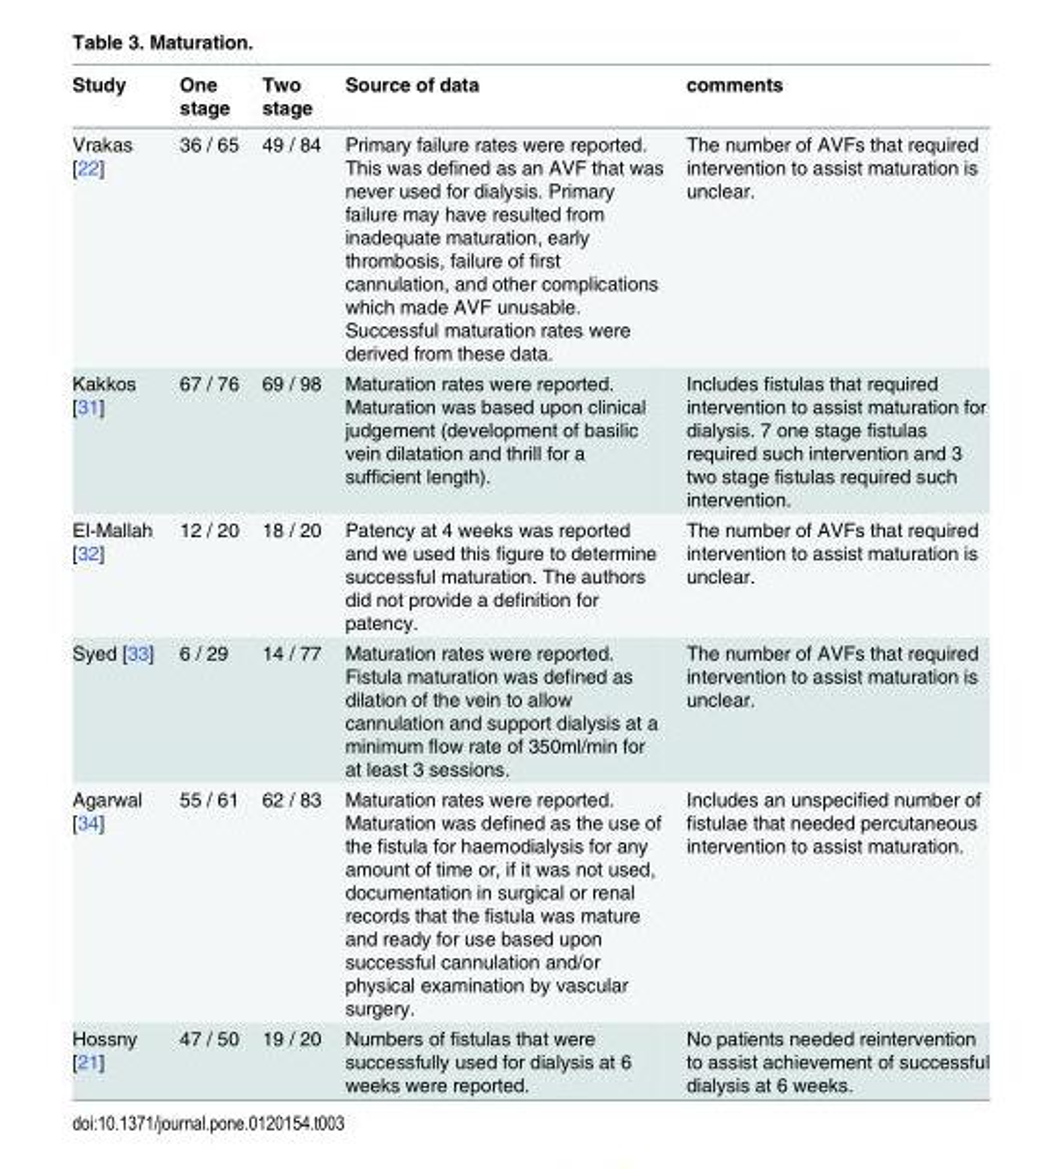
<table><thead><tr><td>Study</td><td>One stage</td><td>Two stage</td><td>Source of data</td><td>comments</td></tr></thead><tbody><tr><td>Vrakas [22]</td><td>36 / 65</td><td>49 / 84</td><td>Primary failure rates were reported. This was defined as an AVF that was never used for dialysis. Primary failure may have resulted from inadequate maturation, early thrombosis, failure of first cannulation, and other complications which made AVF unusable. Successful maturation rates were derived from these data.</td><td>The number of AVFs that required intervention to assist maturation is unclear.</td></tr><tr><td>Kakkos [31]</td><td>67 / 76</td><td>69 / 98</td><td>Maturation rates were reported. Maturation was based upon clinical judgement (development of basilic vein dilatation and thrill for a sufficient length).</td><td>Includes fistulas that required intervention to assist maturation for dialysis. 7 one stage fistulas required such intervention and 3 two stage fistulas required such intervention.</td></tr><tr><td>El-Mallah [32]</td><td>12 / 20</td><td>18 / 20</td><td>Patency at 4 weeks was reported and we used this figure to determine successful maturation. The authors did not provide a definition for patency.</td><td>The number of AVFs that required intervention to assist maturation is unclear.</td></tr><tr><td>Syed [33]</td><td>6 / 29</td><td>14 / 77</td><td>Maturation rates were reported. Fistula maturation was defined as dilation of the vein to allow cannulation and support dialysis at a minimum flow rate of 350ml/min for at least 3 sessions.</td><td>The number of AVFs that required intervention to assist maturation is unclear.</td></tr><tr><td>Agarwal [34]</td><td>55 / 61</td><td>62 / 83</td><td>Maturation rates were reported. Maturation was defined as the use of the fistula for haemodialysis for any amount of time or, if it was not used, documentation in surgical or renal records that the fistula was mature and ready for use based upon successful cannulation and/or physical examination by vascular surgery.</td><td>Includes an unspecified number of fistulae that needed percutaneous intervention to assist maturation.</td></tr><tr><td>Hossny [21]</td><td>47 / 50</td><td>19 / 20</td><td>Numbers of fistulas that were successfully used for dialysis at 6 weeks were reported.</td><td>No patients needed reintervention to assist achievement of successful dialysis at 6 weeks.</td></tr></tbody></table>